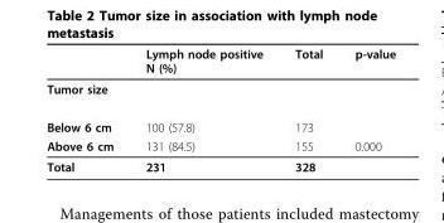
<table><thead><tr><td></td><td>Lymph node positive N (%)</td><td>Total</td><td>p-value</td></tr></thead><tbody><tr><td colspan="4">Tumor size</td></tr><tr><td>Below 6 cm</td><td>100 (57.8)</td><td>173</td><td></td></tr><tr><td>Above 6 cm</td><td>131 (84.5)</td><td>155</td><td>0.000</td></tr><tr><td>Total</td><td>231</td><td>328</td><td></td></tr></tbody></table>